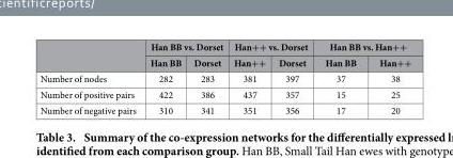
<table><thead><tr><td rowspan="2"></td><td colspan="2">Han BB vs. Dorset</td><td colspan="2">Han++ vs. Dorset</td><td colspan="2">Han BB vs. Han++</td></tr><tr><td>Han BB</td><td>Dorset</td><td>Han++</td><td>Dorset</td><td>Han BB</td><td>Han++</td></tr></thead><tbody><tr><td>Number of nodes</td><td>282</td><td>283</td><td>381</td><td>397</td><td>37</td><td>38</td></tr><tr><td>Number of positive pairs</td><td>422</td><td>386</td><td>437</td><td>357</td><td>15</td><td>25</td></tr><tr><td>Number of negative pairs</td><td>310</td><td>341</td><td>351</td><td>356</td><td>17</td><td>20</td></tr></tbody></table>